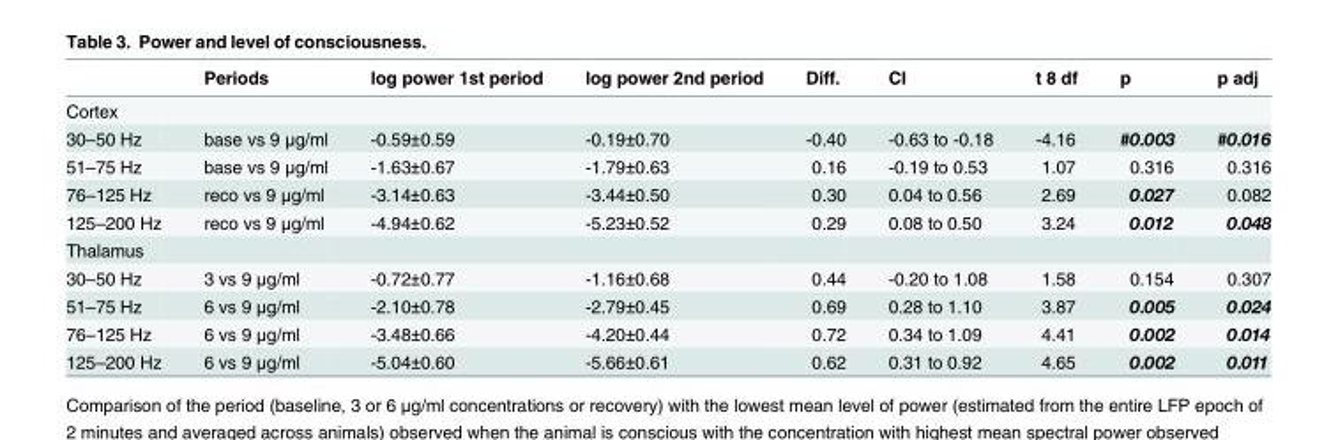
<table><thead><tr><td></td><td>Periods</td><td>log power 1st period</td><td>log power 2nd period</td><td>Diff.</td><td>CI</td><td>t 8 df</td><td>p</td><td>p adj</td></tr></thead><tbody><tr><td colspan="9">Cortex</td></tr><tr><td>30–50 Hz</td><td>base vs 9 μg/ml</td><td>-0.59±0.59</td><td>-0.19±0.70</td><td>-0.40</td><td>-0.63 to -0.18</td><td>-4.16</td><td>#0.003</td><td>#0.016</td></tr><tr><td>51–75 Hz</td><td>base vs 9 μg/ml</td><td>-1.63±0.67</td><td>-1.79±0.63</td><td>0.16</td><td>-0.19 to 0.53</td><td>1.07</td><td>0.316</td><td>0.316</td></tr><tr><td>76–125 Hz</td><td>reco vs 9 μg/ml</td><td>-3.14±0.63</td><td>-3.44±0.50</td><td>0.30</td><td>0.04 to 0.56</td><td>2.69</td><td>0.027</td><td>0.082</td></tr><tr><td>125–200 Hz</td><td>reco vs 9 μg/ml</td><td>-4.94±0.62</td><td>-5.23±0.52</td><td>0.29</td><td>0.08 to 0.50</td><td>3.24</td><td>0.012</td><td>0.048</td></tr><tr><td colspan="9">Thalamus</td></tr><tr><td>30–50 Hz</td><td>3 vs 9 μg/ml</td><td>-0.72±0.77</td><td>-1.16±0.68</td><td>0.44</td><td>-0.20 to 1.08</td><td>1.58</td><td>0.154</td><td>0.307</td></tr><tr><td>51–75 Hz</td><td>6 vs 9 μg/ml</td><td>-2.10±0.78</td><td>-2.79±0.45</td><td>0.69</td><td>0.28 to 1.10</td><td>3.87</td><td>0.005</td><td>0.024</td></tr><tr><td>76–125 Hz</td><td>6 vs 9 μg/ml</td><td>-3.48±0.66</td><td>-4.20±0.44</td><td>0.72</td><td>0.34 to 1.09</td><td>4.41</td><td>0.002</td><td>0.014</td></tr><tr><td>125–200 Hz</td><td>6 vs 9 μg/ml</td><td>-5.04±0.60</td><td>-5.66±0.61</td><td>0.62</td><td>0.31 to 0.92</td><td>4.65</td><td>0.002</td><td>0.011</td></tr></tbody></table>